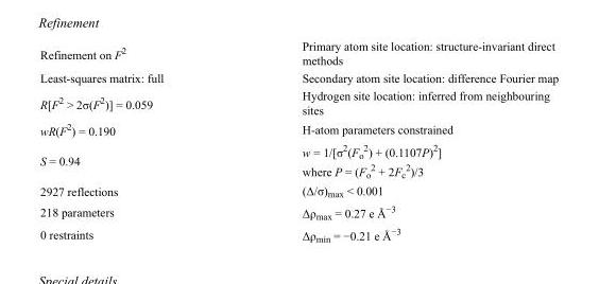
<table><tbody><tr><td>Refinement on F<sup>2</sup></td><td>Primary atom site location: structure-invariant direct methods</td></tr><tr><td>Least-squares matrix: full</td><td>Secondary atom site location: difference Fourier map</td></tr><tr><td>R[F<sup>2</sup> &gt; 2σ(F<sup>2</sup>)] = 0.059</td><td>Hydrogen site location: inferred from neighbouring sites</td></tr><tr><td>wR(F<sup>2</sup>) = 0.190</td><td>H-atom parameters constrained</td></tr><tr><td>S = 0.94</td><td>w = 1/[σ<sup>2</sup>(F<sub>o</sub> <sup>2</sup>) + (0.1107P)<sup>2</sup>] where P = (F<sub>o</sub> <sup>2</sup> + 2F<sub>c</sub> <sup>2</sup>)/3</td></tr><tr><td>2927 reflections</td><td>(Δ/σ)<sub>max</sub> &lt; 0.001</td></tr><tr><td>218 parameters</td><td>Δρ<sub>max</sub> = 0.27 e Å<sup>−3</sup></td></tr><tr><td>0 restraints</td><td>Δρ<sub>min</sub> = −0.21 e Å<sup>−3</sup></td></tr></tbody></table>